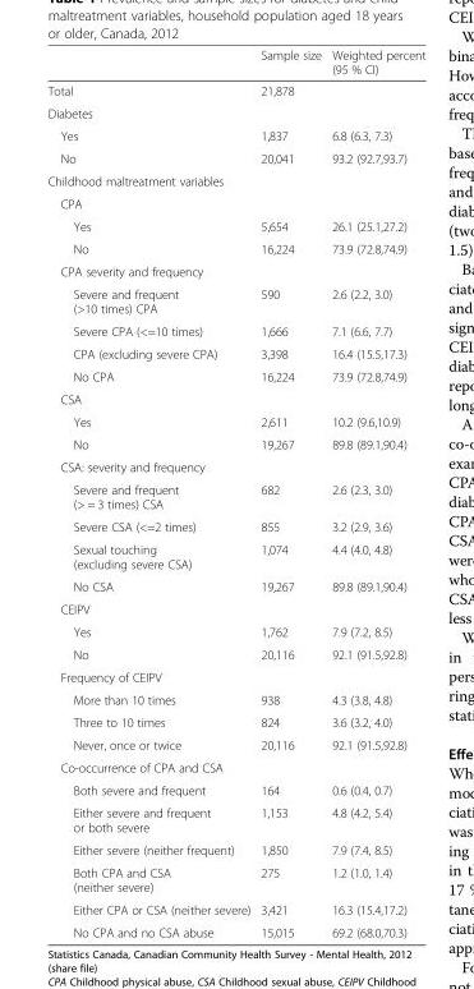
<table><thead><tr><td></td><td>Sample size</td><td>Weighted percent (95 % CI)</td></tr></thead><tbody><tr><td>Total</td><td>21,878</td><td></td></tr><tr><td colspan="3">Diabetes</td></tr><tr><td>Yes</td><td>1,837</td><td>6.8 (6.3, 7.3)</td></tr><tr><td>No</td><td>20,041</td><td>93.2 (92.7,93.7)</td></tr><tr><td colspan="3">Childhood maltreatment variables</td></tr><tr><td colspan="3">CPA</td></tr><tr><td>Yes</td><td>5,654</td><td>26.1 (25.1,27.2)</td></tr><tr><td>No</td><td>16,224</td><td>73.9 (72.8,74.9)</td></tr><tr><td colspan="3">CPA severity and frequency</td></tr><tr><td>Severe and frequent (&gt;10 times) CPA</td><td>590</td><td>2.6 (2.2, 3.0)</td></tr><tr><td>Severe CPA (&lt;=10 times)</td><td>1,666</td><td>7.1 (6.6, 7.7)</td></tr><tr><td>CPA (excluding severe CPA)</td><td>3,398</td><td>16.4 (15.5,17.3)</td></tr><tr><td>No CPA</td><td>16,224</td><td>73.9 (72.8,74.9)</td></tr><tr><td colspan="3">CSA</td></tr><tr><td>Yes</td><td>2,611</td><td>10.2 (9.6,10.9)</td></tr><tr><td>No</td><td>19,267</td><td>89.8 (89.1,90.4)</td></tr><tr><td colspan="3">CSA: severity and frequency</td></tr><tr><td>Severe and frequent (&gt; = 3 times) CSA</td><td>682</td><td>2.6 (2.3, 3.0)</td></tr><tr><td>Severe CSA (&lt;=2 times)</td><td>855</td><td>3.2 (2.9, 3.6)</td></tr><tr><td>Sexual touching (excluding severe CSA)</td><td>1,074</td><td>4.4 (4.0, 4.8)</td></tr><tr><td>No CSA</td><td>19,267</td><td>89.8 (89.1,90.4)</td></tr><tr><td colspan="3">CEIPV</td></tr><tr><td>Yes</td><td>1,762</td><td>7.9 (7.2, 8.5)</td></tr><tr><td>No</td><td>20,116</td><td>92.1 (91.5,92.8)</td></tr><tr><td colspan="3">Frequency of CEIPV</td></tr><tr><td>More than 10 times</td><td>938</td><td>4.3 (3.8, 4.8)</td></tr><tr><td>Three to 10 times</td><td>824</td><td>3.6 (3.2, 4.0)</td></tr><tr><td>Never, once or twice</td><td>20,116</td><td>92.1 (91.5,92.8)</td></tr><tr><td colspan="3">Co-occurrence of CPA and CSA</td></tr><tr><td>Both severe and frequent</td><td>164</td><td>0.6 (0.4, 0.7)</td></tr><tr><td>Either severe and frequent or both severe</td><td>1,153</td><td>4.8 (4.2, 5.4)</td></tr><tr><td>Either severe (neither frequent)</td><td>1,850</td><td>7.9 (7.4, 8.5)</td></tr><tr><td>Both CPA and CSA (neither severe)</td><td>275</td><td>1.2 (1.0, 1.4)</td></tr><tr><td>Either CPA or CSA (neither severe)</td><td>3,421</td><td>16.3 (15.4,17.2)</td></tr><tr><td>No CPA and no CSA abuse</td><td>15,015</td><td>69.2 (68.0,70.3)</td></tr></tbody></table>